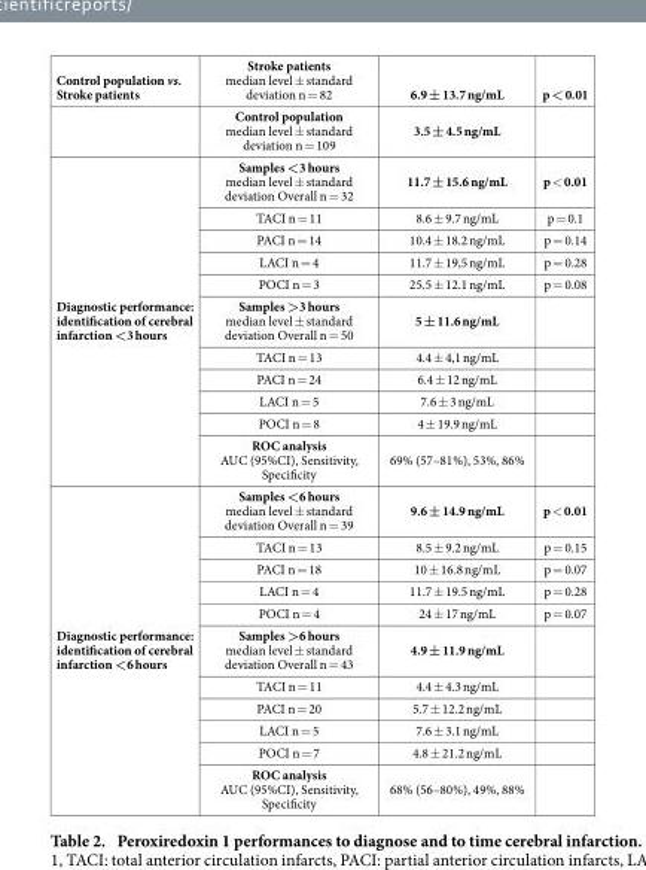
<table><tbody><tr><td rowspan="2">Control population vs. Stroke patients</td><td>Stroke patients median level ± standard deviation n = 82</td><td>6.9 ± 13.7 ng/mL</td><td>p &lt; 0.01</td></tr><tr><td>Control population median level ± standard deviation n = 109</td><td>3.5 ± 4.5 ng/mL</td><td></td></tr><tr><td rowspan="11">Diagnostic performance: identification of cerebral infarction &lt;3 hours</td><td>Samples &lt;3 hours median level ± standard deviation Overall n = 32</td><td>11.7 ± 15.6 ng/mL</td><td>p &lt; 0.01</td></tr><tr><td>TACI n = 11</td><td>8.6 ± 9.7 ng/mL</td><td>p = 0.1</td></tr><tr><td>PACI n = 14</td><td>10.4 ± 18.2 ng/mL</td><td>p = 0.14</td></tr><tr><td>LACI n = 4</td><td>11.7 ± 19,5 ng/mL</td><td>p = 0.28</td></tr><tr><td>POCI n = 3</td><td>25.5 ± 12.1 ng/mL</td><td>p = 0.08</td></tr><tr><td>Samples &gt;3 hours median level ± standard deviation Overall n = 50</td><td>5 ± 11.6 ng/mL</td><td></td></tr><tr><td>TACI n = 13</td><td>4.4 ± 4,1 ng/mL</td><td></td></tr><tr><td>PACI n = 24</td><td>6.4 ± 12 ng/mL</td><td></td></tr><tr><td>LACI n = 5</td><td>7.6 ± 3 ng/mL</td><td></td></tr><tr><td>POCI n = 8</td><td>4 ± 19.9 ng/mL</td><td></td></tr><tr><td>ROC analysis AUC (95%CI), Sensitivity, Specificity</td><td>69% (57–81%), 53%, 86%</td><td></td></tr><tr><td rowspan="11">Diagnostic performance: identification of cerebral infarction &lt;6 hours</td><td>Samples &lt;6 hours median level ± standard deviation Overall n = 39</td><td>9.6 ± 14.9 ng/mL</td><td>p &lt; 0.01</td></tr><tr><td>TACI n = 13</td><td>8.5 ± 9.2 ng/mL</td><td>p = 0.15</td></tr><tr><td>PACI n = 18</td><td>10 ± 16.8 ng/mL</td><td>p = 0.07</td></tr><tr><td>LACI n = 4</td><td>11.7 ± 19.5 ng/mL</td><td>p = 0.28</td></tr><tr><td>POCI n = 4</td><td>24 ± 17 ng/mL</td><td>p = 0.07</td></tr><tr><td>Samples &gt;6 hours median level ± standard deviation Overall n = 43</td><td>4.9 ± 11.9 ng/mL</td><td></td></tr><tr><td>TACI n = 11</td><td>4.4 ± 4.3 ng/mL</td><td></td></tr><tr><td>PACI n = 20</td><td>5.7 ± 12.2 ng/mL</td><td></td></tr><tr><td>LACI n = 5</td><td>7.6 ± 3.1 ng/mL</td><td></td></tr><tr><td>POCI n = 7</td><td>4.8 ± 21.2 ng/mL</td><td></td></tr><tr><td>ROC analysis AUC (95%CI), Sensitivity, Specificity</td><td>68% (56–80%), 49%, 88%</td><td></td></tr></tbody></table>